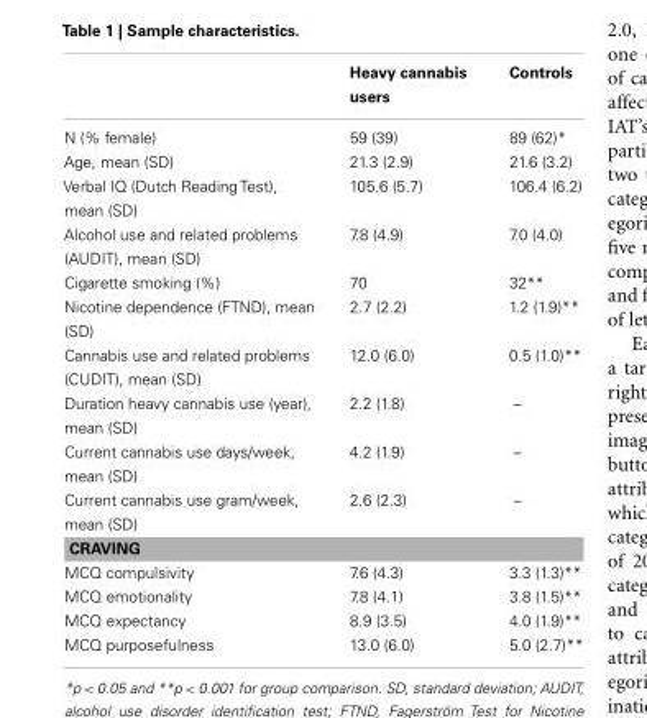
<table><thead><tr><td></td><td>Heavy cannabis users</td><td>Controls</td></tr></thead><tbody><tr><td>N (% female)</td><td>59 (39)</td><td>89 (62)*</td></tr><tr><td>Age, mean (SD)</td><td>21.3 (2.9)</td><td>21.6 (3.2)</td></tr><tr><td>Verbal IQ (Dutch Reading Test), mean (SD)</td><td>105.6 (5.7)</td><td>106.4 (6.2)</td></tr><tr><td>Alcohol use and related problems (AUDIT), mean (SD)</td><td>7.8 (4.9)</td><td>7.0 (4.0)</td></tr><tr><td>Cigarette smoking (%)</td><td>70</td><td>32**</td></tr><tr><td>Nicotine dependence (FTND), mean (SD)</td><td>2.7 (2.2)</td><td>1.2 (1.9)**</td></tr><tr><td>Cannabis use and related problems (CUDIT), mean (SD)</td><td>12.0 (6.0)</td><td>0.5 (1.0)**</td></tr><tr><td>Duration heavy cannabis use (year), mean (SD)</td><td>2.2 (1.8)</td><td>–</td></tr><tr><td>Current cannabis use days/week, mean (SD)</td><td>4.2 (1.9)</td><td>–</td></tr><tr><td>Current cannabis use gram/week, mean (SD)</td><td>2.6 (2.3)</td><td>–</td></tr><tr><td colspan="3">CRAVING</td></tr><tr><td>MCQ compulsivity</td><td>7.6 (4.3)</td><td>3.3 (1.3)**</td></tr><tr><td>MCQ emotionality</td><td>7.8 (4.1)</td><td>3.8 (1.5)**</td></tr><tr><td>MCQ expectancy</td><td>8.9 (3.5)</td><td>4.0 (1.9)**</td></tr><tr><td>MCQ purposefulness</td><td>13.0 (6.0)</td><td>5.0 (2.7)**</td></tr></tbody></table>